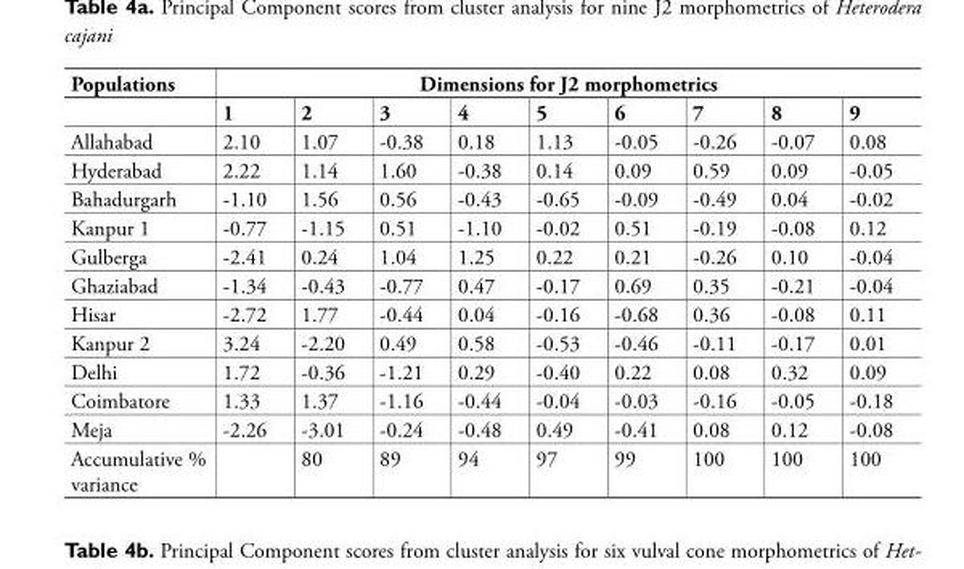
<table><thead><tr><td rowspan="2">Populations</td><td colspan="9">Dimensions for J2 morphometrics</td></tr><tr><td>1</td><td>2</td><td>3</td><td>4</td><td>5</td><td>6</td><td>7</td><td>8</td><td>9</td></tr></thead><tbody><tr><td>Allahabad</td><td>2.10</td><td>1.07</td><td>-0.38</td><td>0.18</td><td>1.13</td><td>-0.05</td><td>-0.26</td><td>-0.07</td><td>0.08</td></tr><tr><td>Hyderabad</td><td>2.22</td><td>1.14</td><td>1.60</td><td>-0.38</td><td>0.14</td><td>0.09</td><td>0.59</td><td>0.09</td><td>-0.05</td></tr><tr><td>Bahadurgarh</td><td>-1.10</td><td>1.56</td><td>0.56</td><td>-0.43</td><td>-0.65</td><td>-0.09</td><td>-0.49</td><td>0.04</td><td>-0.02</td></tr><tr><td>Kanpur 1</td><td>-0.77</td><td>-1.15</td><td>0.51</td><td>-1.10</td><td>-0.02</td><td>0.51</td><td>-0.19</td><td>-0.08</td><td>0.12</td></tr><tr><td>Gulberga</td><td>-2.41</td><td>0.24</td><td>1.04</td><td>1.25</td><td>0.22</td><td>0.21</td><td>-0.26</td><td>0.10</td><td>-0.04</td></tr><tr><td>Ghaziabad</td><td>-1.34</td><td>-0.43</td><td>-0.77</td><td>0.47</td><td>-0.17</td><td>0.69</td><td>0.35</td><td>-0.21</td><td>-0.04</td></tr><tr><td>Hisar</td><td>-2.72</td><td>1.77</td><td>-0.44</td><td>0.04</td><td>-0.16</td><td>-0.68</td><td>0.36</td><td>-0.08</td><td>0.11</td></tr><tr><td>Kanpur 2</td><td>3.24</td><td>-2.20</td><td>0.49</td><td>0.58</td><td>-0.53</td><td>-0.46</td><td>-0.11</td><td>-0.17</td><td>0.01</td></tr><tr><td>Delhi</td><td>1.72</td><td>-0.36</td><td>-1.21</td><td>0.29</td><td>-0.40</td><td>0.22</td><td>0.08</td><td>0.32</td><td>0.09</td></tr><tr><td>Coimbatore</td><td>1.33</td><td>1.37</td><td>-1.16</td><td>-0.44</td><td>-0.04</td><td>-0.03</td><td>-0.16</td><td>-0.05</td><td>-0.18</td></tr><tr><td>Meja</td><td>-2.26</td><td>-3.01</td><td>-0.24</td><td>-0.48</td><td>0.49</td><td>-0.41</td><td>0.08</td><td>0.12</td><td>-0.08</td></tr><tr><td>Accumulative % variance</td><td></td><td>80</td><td>89</td><td>94</td><td>97</td><td>99</td><td>100</td><td>100</td><td>100</td></tr></tbody></table>